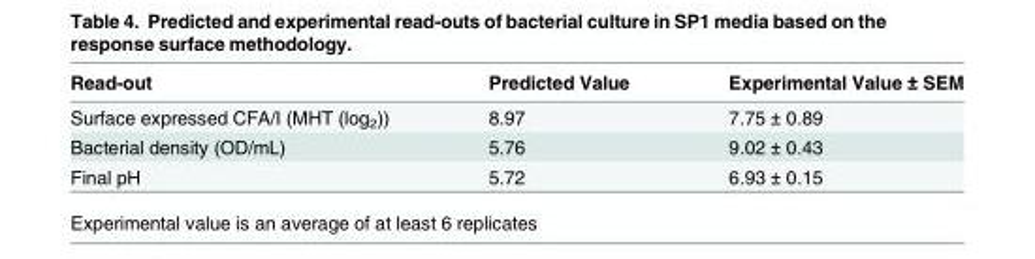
<table><thead><tr><td>Read-out</td><td>Predicted Value</td><td>Experimental Value ± SEM</td></tr></thead><tbody><tr><td>Surface expressed CFA/I (MHT (log<sub>2</sub>))</td><td>8.97</td><td>7.75 ± 0.89</td></tr><tr><td>Bacterial density (OD/mL)</td><td>5.76</td><td>9.02 ± 0.43</td></tr><tr><td>Final pH</td><td>5.72</td><td>6.93 ± 0.15</td></tr></tbody></table>